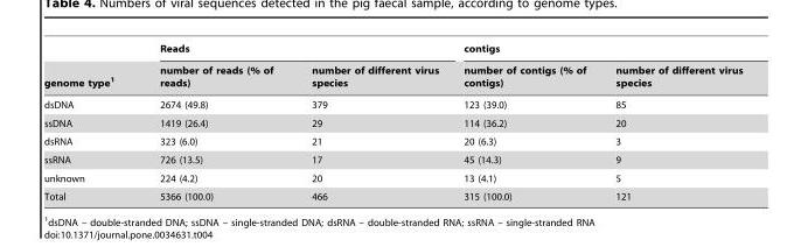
<table><thead><tr><td rowspan="2">genome type<sup>1</sup></td><td colspan="2">Reads</td><td colspan="2">contigs</td></tr><tr><td>number of reads (% of reads)</td><td>number of different virus species</td><td>number of contigs (% of contigs)</td><td>number of different virus species</td></tr></thead><tbody><tr><td>dsDNA</td><td>2674 (49.8)</td><td>379</td><td>123 (39.0)</td><td>85</td></tr><tr><td>ssDNA</td><td>1419 (26.4)</td><td>29</td><td>114 (36.2)</td><td>20</td></tr><tr><td>dsRNA</td><td>323 (6.0)</td><td>21</td><td>20 (6.3)</td><td>3</td></tr><tr><td>ssRNA</td><td>726 (13.5)</td><td>17</td><td>45 (14.3)</td><td>9</td></tr><tr><td>unknown</td><td>224 (4.2)</td><td>20</td><td>13 (4.1)</td><td>5</td></tr><tr><td>Total</td><td>5366 (100.0)</td><td>466</td><td>315 (100.0)</td><td>121</td></tr></tbody></table>